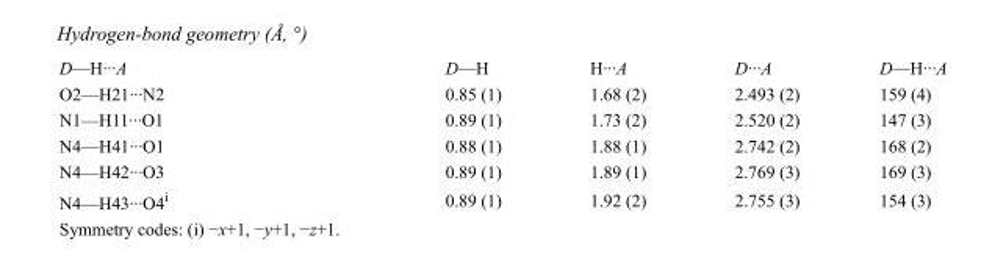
<table><tbody><tr><td>D—H···A</td><td>D—H</td><td>H···A</td><td>D···A</td><td>D—H···A</td></tr><tr><td>O2—H21···N2</td><td>0.85 (1)</td><td>1.68 (2)</td><td>2.493 (2)</td><td>159 (4)</td></tr><tr><td>N1—H11···O1</td><td>0.89 (1)</td><td>1.73 (2)</td><td>2.520 (2)</td><td>147 (3)</td></tr><tr><td>N4—H41···O1</td><td>0.88 (1)</td><td>1.88 (1)</td><td>2.742 (2)</td><td>168 (2)</td></tr><tr><td>N4—H42···O3</td><td>0.89 (1)</td><td>1.89 (1)</td><td>2.769 (3)</td><td>169 (3)</td></tr><tr><td>N4—H43···O4<sup>i</sup></td><td>0.89 (1)</td><td>1.92 (2)</td><td>2.755 (3)</td><td>154 (3)</td></tr></tbody></table>